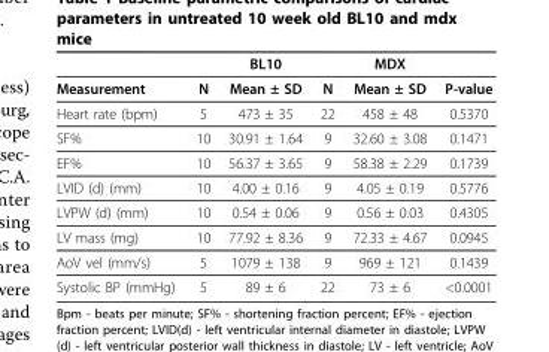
<table><thead><tr><td></td><td></td><td>BL10</td><td></td><td>MDX</td><td></td></tr></thead><tbody><tr><td>Measurement</td><td>N</td><td>Mean ± SD</td><td>N</td><td>Mean ± SD</td><td>P-value</td></tr><tr><td>Heart rate (bpm)</td><td>5</td><td>473 ± 35</td><td>22</td><td>458 ± 48</td><td>0.5370</td></tr><tr><td>SF%</td><td>10</td><td>30.91 ± 1.64</td><td>9</td><td>32.60 ± 3.08</td><td>0.1471</td></tr><tr><td>EF%</td><td>10</td><td>56.37 ± 3.65</td><td>9</td><td>58.38 ± 2.29</td><td>0.1739</td></tr><tr><td>LVID (d) (mm)</td><td>10</td><td>4.00 ± 0.16</td><td>9</td><td>4.05 ± 0.19</td><td>0.5776</td></tr><tr><td>LVPW (d) (mm)</td><td>10</td><td>0.54 ± 0.06</td><td>9</td><td>0.56 ± 0.03</td><td>0.4305</td></tr><tr><td>LV mass (mg)</td><td>10</td><td>77.92 ± 8.36</td><td>9</td><td>72.33 ± 4.67</td><td>0.0945</td></tr><tr><td>AoV vel (mm/s)</td><td>5</td><td>1079 ± 138</td><td>9</td><td>969 ± 121</td><td>0.1439</td></tr><tr><td>Systolic BP (mmHg)</td><td>5</td><td>89 ± 6</td><td>22</td><td>73 ± 6</td><td>&lt;0.0001</td></tr></tbody></table>